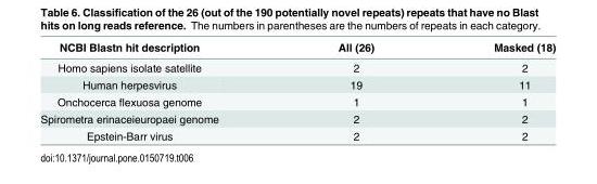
<table><thead><tr><td>NCBI Blastn hit description</td><td>All (26)</td><td>Masked (18)</td></tr></thead><tbody><tr><td>Homo sapiens isolate satellite</td><td>2</td><td>2</td></tr><tr><td>Human herpesvirus</td><td>19</td><td>11</td></tr><tr><td>Onchocerca flexuosa genome</td><td>1</td><td>1</td></tr><tr><td>Spirometra erinaceieuropaei genome</td><td>2</td><td>2</td></tr><tr><td>Epstein-Barr virus</td><td>2</td><td>2</td></tr></tbody></table>